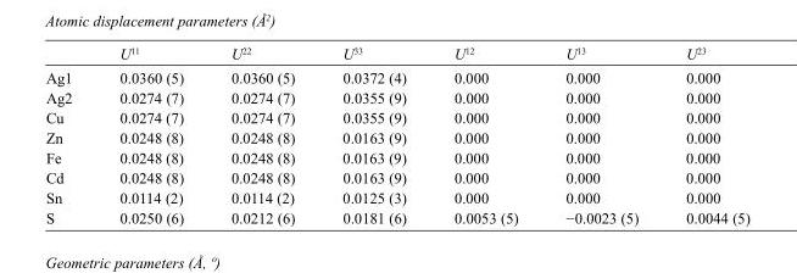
<table><thead><tr><td></td><td>U<sup>11</sup></td><td>U<sup>22</sup></td><td>U<sup>33</sup></td><td>U<sup>12</sup></td><td>U<sup>13</sup></td><td>U<sup>23</sup></td></tr></thead><tbody><tr><td>Ag1</td><td>0.0360 (5)</td><td>0.0360 (5)</td><td>0.0372 (4)</td><td>0.000</td><td>0.000</td><td>0.000</td></tr><tr><td>Ag2</td><td>0.0274 (7)</td><td>0.0274 (7)</td><td>0.0355 (9)</td><td>0.000</td><td>0.000</td><td>0.000</td></tr><tr><td>Cu</td><td>0.0274 (7)</td><td>0.0274 (7)</td><td>0.0355 (9)</td><td>0.000</td><td>0.000</td><td>0.000</td></tr><tr><td>Zn</td><td>0.0248 (8)</td><td>0.0248 (8)</td><td>0.0163 (9)</td><td>0.000</td><td>0.000</td><td>0.000</td></tr><tr><td>Fe</td><td>0.0248 (8)</td><td>0.0248 (8)</td><td>0.0163 (9)</td><td>0.000</td><td>0.000</td><td>0.000</td></tr><tr><td>Cd</td><td>0.0248 (8)</td><td>0.0248 (8)</td><td>0.0163 (9)</td><td>0.000</td><td>0.000</td><td>0.000</td></tr><tr><td>Sn</td><td>0.0114 (2)</td><td>0.0114 (2)</td><td>0.0125 (3)</td><td>0.000</td><td>0.000</td><td>0.000</td></tr><tr><td>S</td><td>0.0250 (6)</td><td>0.0212 (6)</td><td>0.0181 (6)</td><td>0.0053 (5)</td><td>−0.0023 (5)</td><td>0.0044 (5)</td></tr></tbody></table>